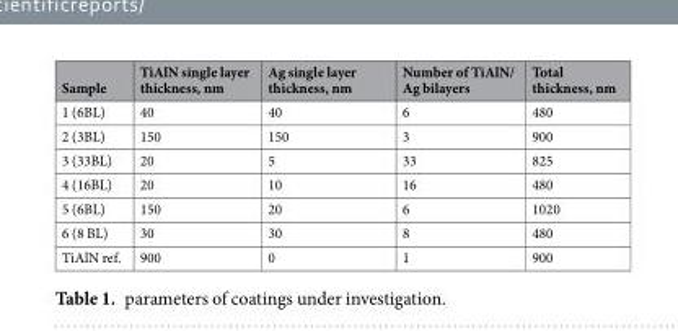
<table><thead><tr><td>Sample</td><td>TiAlN single layer thickness, nm</td><td>Ag single layer thickness, nm</td><td>Number of TiAlN/ Ag bilayers</td><td>Total thickness, nm</td></tr></thead><tbody><tr><td>1 (6BL)</td><td>40</td><td>40</td><td>6</td><td>480</td></tr><tr><td>2 (3BL)</td><td>150</td><td>150</td><td>3</td><td>900</td></tr><tr><td>3 (33BL)</td><td>20</td><td>5</td><td>33</td><td>825</td></tr><tr><td>4 (16BL)</td><td>20</td><td>10</td><td>16</td><td>480</td></tr><tr><td>5 (6BL)</td><td>150</td><td>20</td><td>6</td><td>1020</td></tr><tr><td>6 (8 BL)</td><td>30</td><td>30</td><td>8</td><td>480</td></tr><tr><td>TiAlN ref.</td><td>900</td><td>0</td><td>1</td><td>900</td></tr></tbody></table>